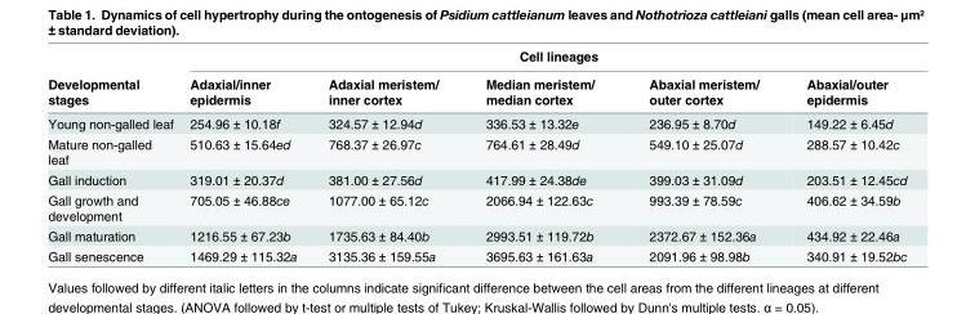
<table><thead><tr><td rowspan="2">Developmental stages</td><td colspan="5">Cell lineages</td></tr><tr><td>Adaxial/inner epidermis</td><td>Adaxial meristem/ inner cortex</td><td>Median meristem/ median cortex</td><td>Abaxial meristem/ outer cortex</td><td>Abaxial/outer epidermis</td></tr></thead><tbody><tr><td>Young non-galled leaf</td><td>254.96 ± 10.18f</td><td>324.57 ± 12.94d</td><td>336.53 ± 13.32e</td><td>236.95 ± 8.70d</td><td>149.22 ± 6.45d</td></tr><tr><td>Mature non-galled leaf</td><td>510.63 ± 15.64ed</td><td>768.37 ± 26.97c</td><td>764.61 ± 28.49d</td><td>549.10 ± 25.07d</td><td>288.57 ± 10.42c</td></tr><tr><td>Gall induction</td><td>319.01 ± 20.37d</td><td>381.00 ± 27.56d</td><td>417.99 ± 24.38de</td><td>399.03 ± 31.09d</td><td>203.51 ± 12.45cd</td></tr><tr><td>Gall growth and development</td><td>705.05 ± 46.88ce</td><td>1077.00 ± 65.12c</td><td>2066.94 ± 122.63c</td><td>993.39 ± 78.59c</td><td>406.62 ± 34.59b</td></tr><tr><td>Gall maturation</td><td>1216.55 ± 67.23b</td><td>1735.63 ± 84.40b</td><td>2993.51 ± 119.72b</td><td>2372.67 ± 152.36a</td><td>434.92 ± 22.46a</td></tr><tr><td>Gall senescence</td><td>1469.29 ± 115.32a</td><td>3135.36 ± 159.55a</td><td>3695.63 ± 161.63a</td><td>2091.96 ± 98.98b</td><td>340.91 ± 19.52bc</td></tr></tbody></table>